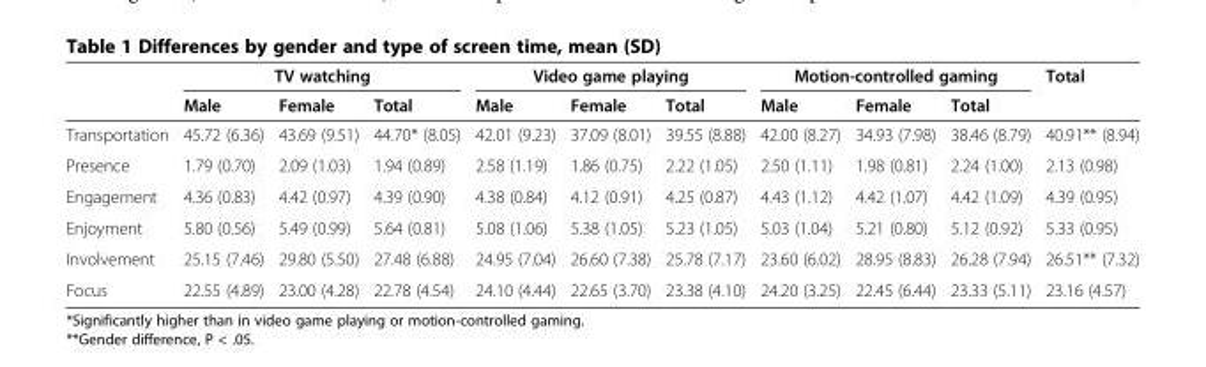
<table><thead><tr><td rowspan="2"></td><td rowspan="2">Male</td><td rowspan="2">TV watching Female</td><td rowspan="2">Total</td><td colspan="3">Video game playing</td><td colspan="3">Motion-controlled gaming</td><td rowspan="2">Total</td></tr><tr><td>Male</td><td>Female</td><td>Total</td><td>Male</td><td>Female</td><td>Total</td></tr></thead><tbody><tr><td>Transportation</td><td>45.72 (6.36)</td><td>43.69 (9.51)</td><td>44.70* (8.05)</td><td>42.01 (9.23)</td><td>37.09 (8.01)</td><td>39.55 (8.88)</td><td>42.00 (8.27)</td><td>34.93 (7.98)</td><td>38.46 (8.79)</td><td>40.91** (8.94)</td></tr><tr><td>Presence</td><td>1.79 (0.70)</td><td>2.09 (1.03)</td><td>1.94 (0.89)</td><td>2.58 (1.19)</td><td>1.86 (0.75)</td><td>2.22 (1.05)</td><td>2.50 (1.11)</td><td>1.98 (0.81)</td><td>2.24 (1.00)</td><td>2.13 (0.98)</td></tr><tr><td>Engagement</td><td>4.36 (0.83)</td><td>4.42 (0.97)</td><td>4.39 (0.90)</td><td>4.38 (0.84)</td><td>4.12 (0.91)</td><td>4.25 (0.87)</td><td>4.43 (1.12)</td><td>4.42 (1.07)</td><td>4.42 (1.09)</td><td>4.39 (0.95)</td></tr><tr><td>Enjoyment</td><td>5.80 (0.56)</td><td>5.49 (0.99)</td><td>5.64 (0.81)</td><td>5.08 (1.06)</td><td>5.38 (1.05)</td><td>5.23 (1.05)</td><td>5.03 (1.04)</td><td>5.21 (0.80)</td><td>5.12 (0.92)</td><td>5.33 (0.95)</td></tr><tr><td>Involvement</td><td>25.15 (7.46)</td><td>29.80 (5.50)</td><td>27.48 (6.88)</td><td>24.95 (7.04)</td><td>26.60 (7.38)</td><td>25.78 (7.17)</td><td>23.60 (6.02)</td><td>28.95 (8.83)</td><td>26.28 (7.94)</td><td>26.51** (7.32)</td></tr><tr><td>Focus</td><td>22.55 (4.89)</td><td>23.00 (4.28)</td><td>22.78 (4.54)</td><td>24.10 (4.44)</td><td>22.65 (3.70)</td><td>23.38 (4.10)</td><td>24.20 (3.25)</td><td>22.45 (6.44)</td><td>23.33 (5.11)</td><td>23.16 (4.57)</td></tr></tbody></table>